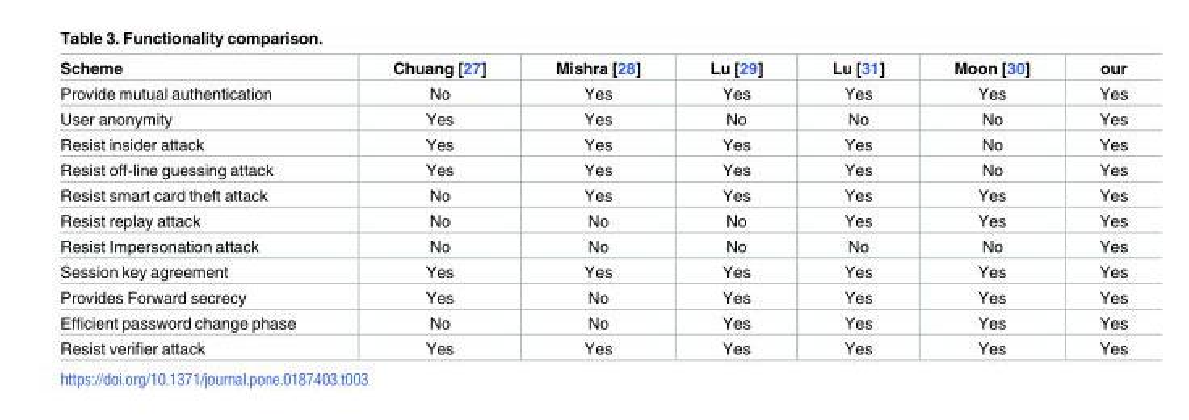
<table><thead><tr><td>Scheme</td><td>Chuang [27]</td><td>Mishra [28]</td><td>Lu [29]</td><td>Lu [31]</td><td>Moon [30]</td><td>our</td></tr></thead><tbody><tr><td>Provide mutual authentication</td><td>No</td><td>Yes</td><td>Yes</td><td>Yes</td><td>Yes</td><td>Yes</td></tr><tr><td>User anonymity</td><td>Yes</td><td>Yes</td><td>No</td><td>No</td><td>No</td><td>Yes</td></tr><tr><td>Resist insider attack</td><td>Yes</td><td>Yes</td><td>Yes</td><td>Yes</td><td>No</td><td>Yes</td></tr><tr><td>Resist off-line guessing attack</td><td>Yes</td><td>Yes</td><td>Yes</td><td>Yes</td><td>No</td><td>Yes</td></tr><tr><td>Resist smart card theft attack</td><td>No</td><td>Yes</td><td>Yes</td><td>Yes</td><td>Yes</td><td>Yes</td></tr><tr><td>Resist replay attack</td><td>No</td><td>No</td><td>No</td><td>Yes</td><td>Yes</td><td>Yes</td></tr><tr><td>Resist Impersonation attack</td><td>No</td><td>No</td><td>No</td><td>No</td><td>No</td><td>Yes</td></tr><tr><td>Session key agreement</td><td>Yes</td><td>Yes</td><td>Yes</td><td>Yes</td><td>Yes</td><td>Yes</td></tr><tr><td>Provides Forward secrecy</td><td>Yes</td><td>No</td><td>Yes</td><td>Yes</td><td>Yes</td><td>Yes</td></tr><tr><td>Efficient password change phase</td><td>No</td><td>No</td><td>Yes</td><td>Yes</td><td>Yes</td><td>Yes</td></tr><tr><td>Resist verifier attack</td><td>Yes</td><td>Yes</td><td>Yes</td><td>Yes</td><td>Yes</td><td>Yes</td></tr></tbody></table>